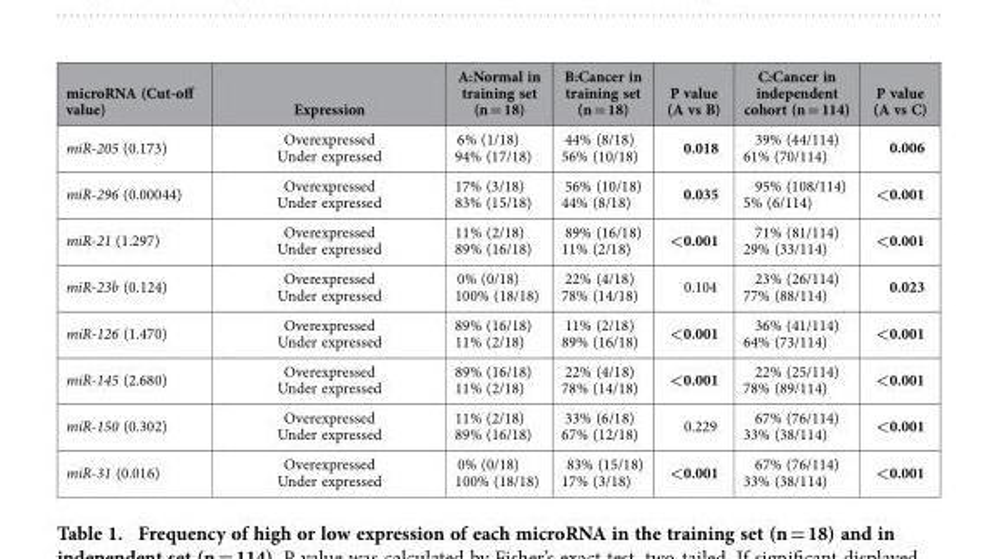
<table><thead><tr><td>microRNA (Cut-off value)</td><td>Expression</td><td>A:Normal in training set (n = 18)</td><td>B:Cancer in training set (n = 18)</td><td>P value (A vs B)</td><td>C:Cancer in independent cohort (n = 114)</td><td>P value (A vs C)</td></tr></thead><tbody><tr><td>miR-205 (0.173)</td><td>Overexpressed Under expressed</td><td>6% (1/18) 94% (17/18)</td><td>44% (8/18) 56% (10/18)</td><td>0.018</td><td>39% (44/114) 61% (70/114)</td><td>0.006</td></tr><tr><td>miR-296 (0.00044)</td><td>Overexpressed Under expressed</td><td>17% (3/18) 83% (15/18)</td><td>56% (10/18) 44% (8/18)</td><td>0.035</td><td>95% (108/114) 5% (6/114)</td><td>&lt;0.001</td></tr><tr><td>miR-21 (1.297)</td><td>Overexpressed Under expressed</td><td>11% (2/18) 89% (16/18)</td><td>89% (16/18) 11% (2/18)</td><td>&lt;0.001</td><td>71% (81/114) 29% (33/114)</td><td>&lt;0.001</td></tr><tr><td>miR-23b (0.124)</td><td>Overexpressed Under expressed</td><td>0% (0/18) 100% (18/18)</td><td>22% (4/18) 78% (14/18)</td><td>0.104</td><td>23% (26/114) 77% (88/114)</td><td>0.023</td></tr><tr><td>miR-126 (1.470)</td><td>Overexpressed Under expressed</td><td>89% (16/18) 11% (2/18)</td><td>11% (2/18) 89% (16/18)</td><td>&lt;0.001</td><td>36% (41/114) 64% (73/114)</td><td>&lt;0.001</td></tr><tr><td>miR-145 (2.680)</td><td>Overexpressed Under expressed</td><td>89% (16/18) 11% (2/18)</td><td>22% (4/18) 78% (14/18)</td><td>&lt;0.001</td><td>22% (25/114) 78% (89/114)</td><td>&lt;0.001</td></tr><tr><td>miR-150 (0.302)</td><td>Overexpressed Under expressed</td><td>11% (2/18) 89% (16/18)</td><td>33% (6/18) 67% (12/18)</td><td>0.229</td><td>67% (76/114) 33% (38/114)</td><td>&lt;0.001</td></tr><tr><td>miR-31 (0.016)</td><td>Overexpressed Under expressed</td><td>0% (0/18) 100% (18/18)</td><td>83% (15/18) 17% (3/18)</td><td>&lt;0.001</td><td>67% (76/114) 33% (38/114)</td><td>&lt;0.001</td></tr></tbody></table>